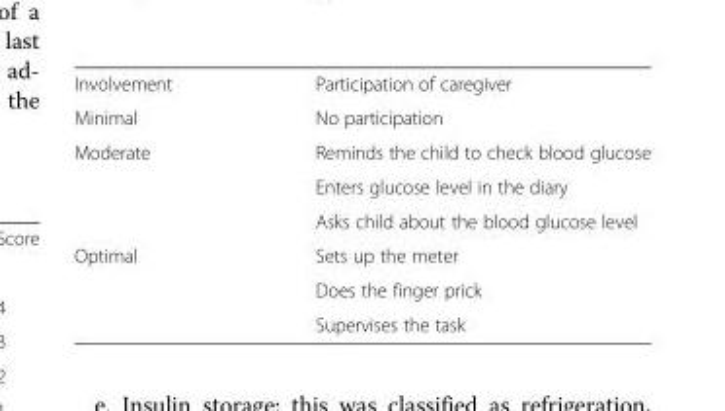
<table><tbody><tr><td>Involvement</td><td>Participation of caregiver</td></tr><tr><td>Minimal</td><td>No participation</td></tr><tr><td rowspan="3">Moderate</td><td>Reminds the child to check blood glucose</td></tr><tr><td>Enters glucose level in the diary</td></tr><tr><td>Asks child about the blood glucose level</td></tr><tr><td rowspan="3">Optimal</td><td>Sets up the meter</td></tr><tr><td>Does the finger prick</td></tr><tr><td>Supervises the task</td></tr></tbody></table>